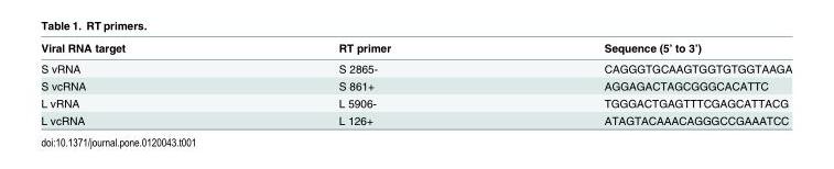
<table><thead><tr><td>Viral RNA target</td><td>RT primer</td><td>Sequence (5’ to 3’)</td></tr></thead><tbody><tr><td>S vRNA</td><td>S 2865-</td><td>CAGGGTGCAAGTGGTGTGGTAAGA</td></tr><tr><td>S vcRNA</td><td>S 861+</td><td>AGGAGACTAGCGGGCACATTC</td></tr><tr><td>L vRNA</td><td>L 5906-</td><td>TGGGACTGAGTTTCGAGCATTACG</td></tr><tr><td>L vcRNA</td><td>L 126+</td><td>ATAGTACAAACAGGGCCGAAATCC</td></tr></tbody></table>